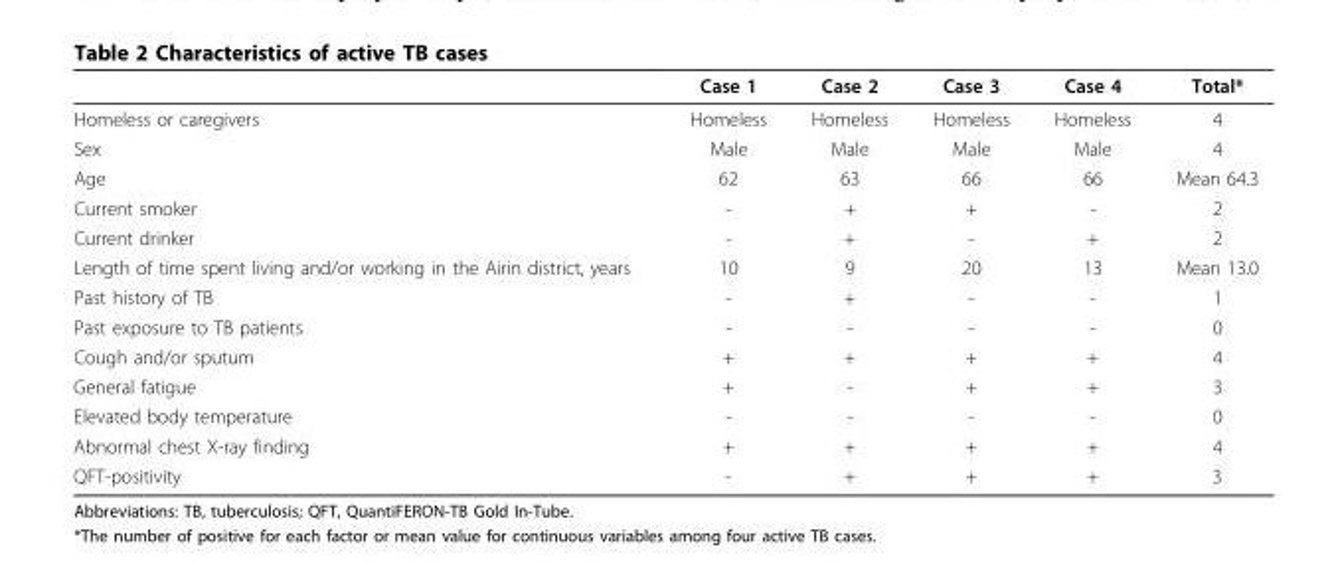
<table><thead><tr><td></td><td>Case 1</td><td>Case 2</td><td>Case 3</td><td>Case 4</td><td>Total*</td></tr></thead><tbody><tr><td>Homeless or caregivers</td><td>Homeless</td><td>Homeless</td><td>Homeless</td><td>Homeless</td><td>4</td></tr><tr><td>Sex</td><td>Male</td><td>Male</td><td>Male</td><td>Male</td><td>4</td></tr><tr><td>Age</td><td>62</td><td>63</td><td>66</td><td>66</td><td>Mean 64.3</td></tr><tr><td>Current smoker</td><td>-</td><td>+</td><td>+</td><td>-</td><td>2</td></tr><tr><td>Current drinker</td><td>-</td><td>+</td><td>-</td><td>+</td><td>2</td></tr><tr><td>Length of time spent living and/or working in the Airin district, years</td><td>10</td><td>9</td><td>20</td><td>13</td><td>Mean 13.0</td></tr><tr><td>Past history of TB</td><td>-</td><td>+</td><td>-</td><td>-</td><td>1</td></tr><tr><td>Past exposure to TB patients</td><td>-</td><td>-</td><td>-</td><td>-</td><td>0</td></tr><tr><td>Cough and/or sputum</td><td>+</td><td>+</td><td>+</td><td>+</td><td>4</td></tr><tr><td>General fatigue</td><td>+</td><td>-</td><td>+</td><td>+</td><td>3</td></tr><tr><td>Elevated body temperature</td><td>-</td><td>-</td><td>-</td><td>-</td><td>0</td></tr><tr><td>Abnormal chest X-ray finding</td><td>+</td><td>+</td><td>+</td><td>+</td><td>4</td></tr><tr><td>QFT-positivity</td><td>-</td><td>+</td><td>+</td><td>+</td><td>3</td></tr></tbody></table>